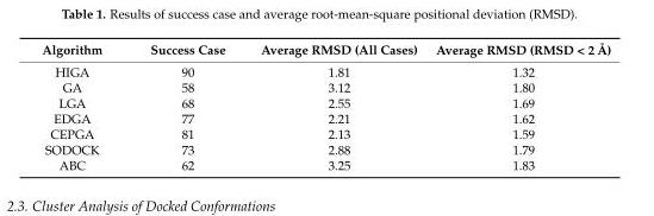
<table><thead><tr><td>Algorithm</td><td>Success Case</td><td>Average RMSD (All Cases)</td><td>Average RMSD (RMSD &lt; 2 Å)</td></tr></thead><tbody><tr><td>HIGA</td><td>90</td><td>1.81</td><td>1.32</td></tr><tr><td>GA</td><td>58</td><td>3.12</td><td>1.80</td></tr><tr><td>LGA</td><td>68</td><td>2.55</td><td>1.69</td></tr><tr><td>EDGA</td><td>77</td><td>2.21</td><td>1.62</td></tr><tr><td>CEPGA</td><td>81</td><td>2.13</td><td>1.59</td></tr><tr><td>SODOCK</td><td>73</td><td>2.88</td><td>1.79</td></tr><tr><td>ABC</td><td>62</td><td>3.25</td><td>1.83</td></tr></tbody></table>